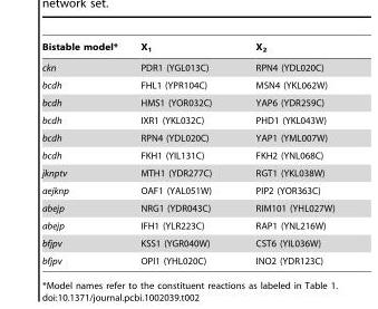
<table><thead><tr><td>Bistable model*</td><td>X<sub>1</sub></td><td>X<sub>2</sub></td></tr></thead><tbody><tr><td>ckn</td><td>PDR1 (YGL013C)</td><td>RPN4 (YDL020C)</td></tr><tr><td>bcdh</td><td>FHL1 (YPR104C)</td><td>MSN4 (YKL062W)</td></tr><tr><td>bcdh</td><td>HMS1 (YOR032C)</td><td>YAP6 (YDR259C)</td></tr><tr><td>bcdh</td><td>IXR1 (YKL032C)</td><td>PHD1 (YKL043W)</td></tr><tr><td>bcdh</td><td>RPN4 (YDL020C)</td><td>YAP1 (YML007W)</td></tr><tr><td>bcdh</td><td>FKH1 (YIL131C)</td><td>FKH2 (YNL068C)</td></tr><tr><td>jknptv</td><td>MTH1 (YDR277C)</td><td>RGT1 (YKL038W)</td></tr><tr><td>aejknp</td><td>OAF1 (YAL051W)</td><td>PIP2 (YOR363C)</td></tr><tr><td>abejp</td><td>NRG1 (YDR043C)</td><td>RIM101 (YHL027W)</td></tr><tr><td>abejp</td><td>IFH1 (YLR223C)</td><td>RAP1 (YNL216W)</td></tr><tr><td>bfjpv</td><td>KSS1 (YGR040W)</td><td>CST6 (YIL036W)</td></tr><tr><td>bfjpv</td><td>OPI1 (YHL020C)</td><td>INO2 (YDR123C)</td></tr></tbody></table>